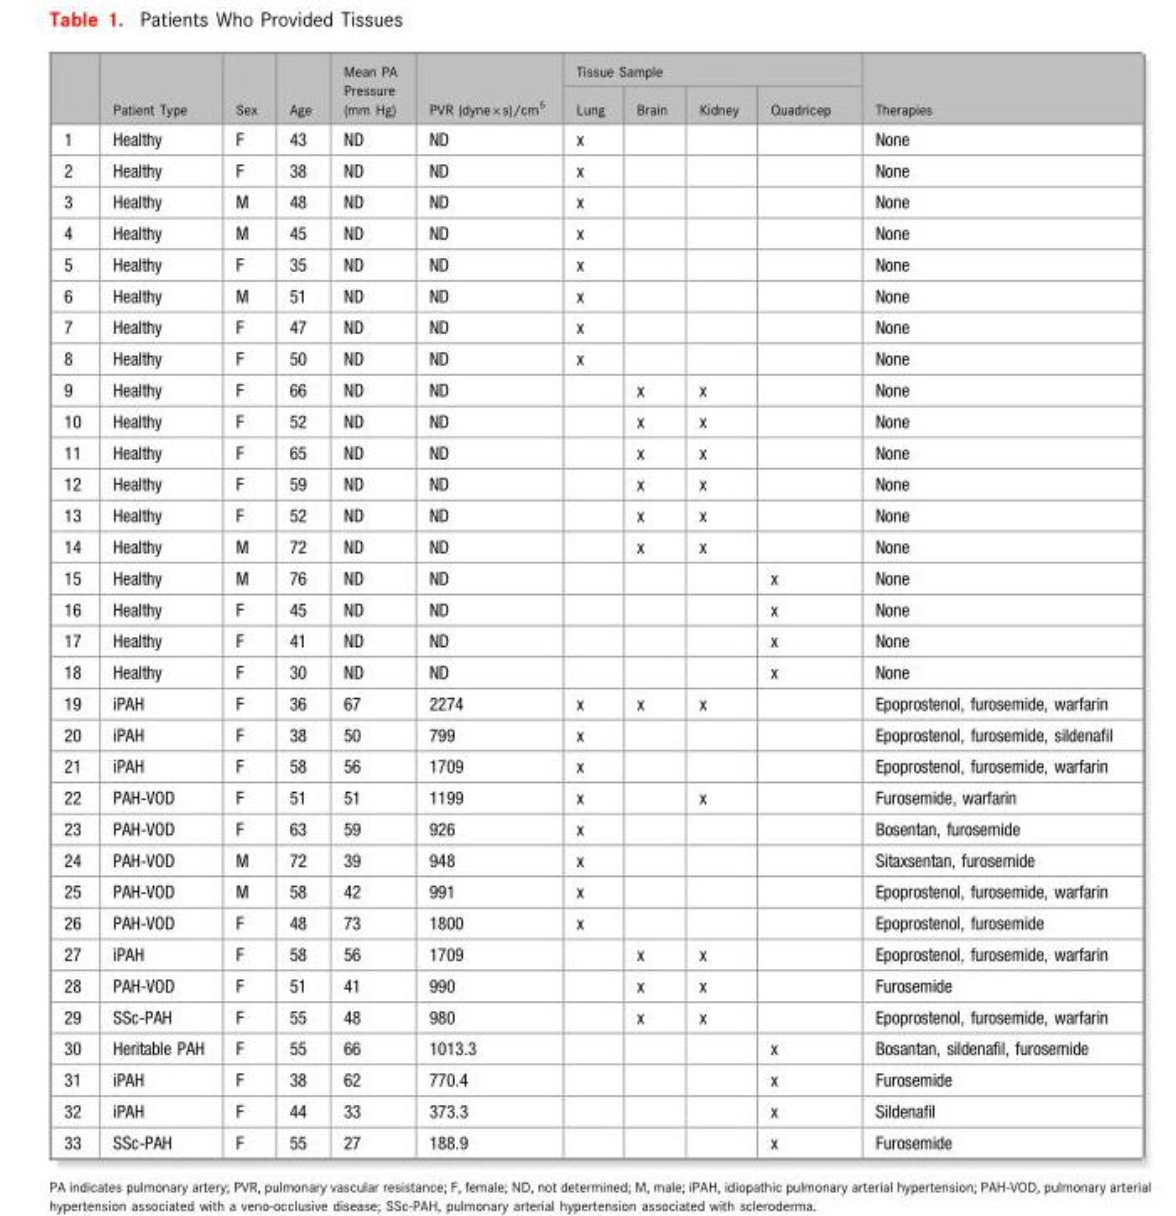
<table><thead><tr><td rowspan="2"></td><td rowspan="2">Patient Type</td><td rowspan="2">Sex</td><td rowspan="2">Age</td><td rowspan="2">Mean PA Pressure (mm Hg)</td><td rowspan="2">PVR (dyne×s)/cm<sup>5</sup></td><td colspan="4">Tissue Sample</td><td rowspan="2">Therapies</td></tr><tr><td>Lung</td><td>Brain</td><td>Kidney</td><td>Quadricep</td></tr></thead><tbody><tr><td>1</td><td>Healthy</td><td>F</td><td>43</td><td>ND</td><td>ND</td><td>x</td><td></td><td></td><td></td><td>None</td></tr><tr><td>2</td><td>Healthy</td><td>F</td><td>38</td><td>ND</td><td>ND</td><td>x</td><td></td><td></td><td></td><td>None</td></tr><tr><td>3</td><td>Healthy</td><td>M</td><td>48</td><td>ND</td><td>ND</td><td>x</td><td></td><td></td><td></td><td>None</td></tr><tr><td>4</td><td>Healthy</td><td>M</td><td>45</td><td>ND</td><td>ND</td><td>x</td><td></td><td></td><td></td><td>None</td></tr><tr><td>5</td><td>Healthy</td><td>F</td><td>35</td><td>ND</td><td>ND</td><td>x</td><td></td><td></td><td></td><td>None</td></tr><tr><td>6</td><td>Healthy</td><td>M</td><td>51</td><td>ND</td><td>ND</td><td>x</td><td></td><td></td><td></td><td>None</td></tr><tr><td>7</td><td>Healthy</td><td>F</td><td>47</td><td>ND</td><td>ND</td><td>x</td><td></td><td></td><td></td><td>None</td></tr><tr><td>8</td><td>Healthy</td><td>F</td><td>50</td><td>ND</td><td>ND</td><td>x</td><td></td><td></td><td></td><td>None</td></tr><tr><td>9</td><td>Healthy</td><td>F</td><td>66</td><td>ND</td><td>ND</td><td></td><td>x</td><td>x</td><td></td><td>None</td></tr><tr><td>10</td><td>Healthy</td><td>F</td><td>52</td><td>ND</td><td>ND</td><td></td><td>x</td><td>x</td><td></td><td>None</td></tr><tr><td>11</td><td>Healthy</td><td>F</td><td>65</td><td>ND</td><td>ND</td><td></td><td>x</td><td>x</td><td></td><td>None</td></tr><tr><td>12</td><td>Healthy</td><td>F</td><td>59</td><td>ND</td><td>ND</td><td></td><td>x</td><td>x</td><td></td><td>None</td></tr><tr><td>13</td><td>Healthy</td><td>F</td><td>52</td><td>ND</td><td>ND</td><td></td><td>x</td><td>x</td><td></td><td>None</td></tr><tr><td>14</td><td>Healthy</td><td>M</td><td>72</td><td>ND</td><td>ND</td><td></td><td>x</td><td>x</td><td></td><td>None</td></tr><tr><td>15</td><td>Healthy</td><td>M</td><td>76</td><td>ND</td><td>ND</td><td></td><td></td><td></td><td>x</td><td>None</td></tr><tr><td>16</td><td>Healthy</td><td>F</td><td>45</td><td>ND</td><td>ND</td><td></td><td></td><td></td><td>x</td><td>None</td></tr><tr><td>17</td><td>Healthy</td><td>F</td><td>41</td><td>ND</td><td>ND</td><td></td><td></td><td></td><td>x</td><td>None</td></tr><tr><td>18</td><td>Healthy</td><td>F</td><td>30</td><td>ND</td><td>ND</td><td></td><td></td><td></td><td>x</td><td>None</td></tr><tr><td>19</td><td>iPAH</td><td>F</td><td>36</td><td>67</td><td>2274</td><td>x</td><td>x</td><td>x</td><td></td><td>Epoprostenol, furosemide, warfarin</td></tr><tr><td>20</td><td>iPAH</td><td>F</td><td>38</td><td>50</td><td>799</td><td>x</td><td></td><td></td><td></td><td>Epoprostenol, furosemide, sildenafil</td></tr><tr><td>21</td><td>iPAH</td><td>F</td><td>58</td><td>56</td><td>1709</td><td>x</td><td></td><td></td><td></td><td>Epoprostenol, furosemide, warfarin</td></tr><tr><td>22</td><td>PAH-VOD</td><td>F</td><td>51</td><td>51</td><td>1199</td><td>x</td><td></td><td>x</td><td></td><td>Furosemide, warfarin</td></tr><tr><td>23</td><td>PAH-VOD</td><td>F</td><td>63</td><td>59</td><td>926</td><td>x</td><td></td><td></td><td></td><td>Bosentan, furosemide</td></tr><tr><td>24</td><td>PAH-VOD</td><td>M</td><td>72</td><td>39</td><td>948</td><td>x</td><td></td><td></td><td></td><td>Sitaxsentan, furosemide</td></tr><tr><td>25</td><td>PAH-VOD</td><td>M</td><td>58</td><td>42</td><td>991</td><td>x</td><td></td><td></td><td></td><td>Epoprostenol, furosemide, warfarin</td></tr><tr><td>26</td><td>PAH-VOD</td><td>F</td><td>48</td><td>73</td><td>1800</td><td>x</td><td></td><td></td><td></td><td>Epoprostenol, furosemide</td></tr><tr><td>27</td><td>iPAH</td><td>F</td><td>58</td><td>56</td><td>1709</td><td></td><td>x</td><td>x</td><td></td><td>Epoprostenol, furosemide, warfarin</td></tr><tr><td>28</td><td>PAH-VOD</td><td>F</td><td>51</td><td>41</td><td>990</td><td></td><td>x</td><td>x</td><td></td><td>Furosemide</td></tr><tr><td>29</td><td>SSc-PAH</td><td>F</td><td>55</td><td>48</td><td>980</td><td></td><td>x</td><td>x</td><td></td><td>Epoprostenol, furosemide, warfarin</td></tr><tr><td>30</td><td>Heritable PAH</td><td>F</td><td>55</td><td>66</td><td>1013.3</td><td></td><td></td><td></td><td>x</td><td>Bosantan, sildenafil, furosemide</td></tr><tr><td>31</td><td>iPAH</td><td>F</td><td>38</td><td>62</td><td>770.4</td><td></td><td></td><td></td><td>x</td><td>Furosemide</td></tr><tr><td>32</td><td>iPAH</td><td>F</td><td>44</td><td>33</td><td>373.3</td><td></td><td></td><td></td><td>x</td><td>Sildenafil</td></tr><tr><td>33</td><td>SSc-PAH</td><td>F</td><td>55</td><td>27</td><td>188.9</td><td></td><td></td><td></td><td>x</td><td>Furosemide</td></tr></tbody></table>